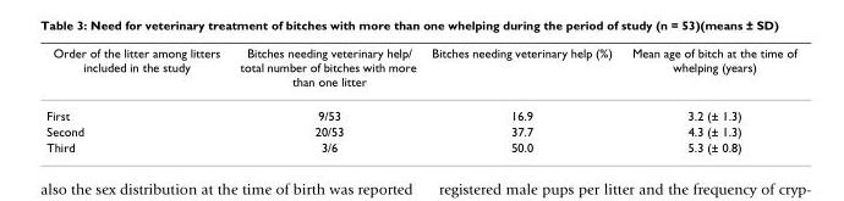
<table><thead><tr><td>Order of the litter among litters included in the study</td><td>Bitches needing veterinary help/ total number of bitches with more than one litter</td><td>Bitches needing veterinary help (%)</td><td>Mean age of bitch at the time of whelping (years)</td></tr></thead><tbody><tr><td>First</td><td>9/53</td><td>16.9</td><td>3.2 (± 1.3)</td></tr><tr><td>Second</td><td>20/53</td><td>37.7</td><td>4.3 (± 1.3)</td></tr><tr><td>Third</td><td>3/6</td><td>50.0</td><td>5.3 (± 0.8)</td></tr></tbody></table>